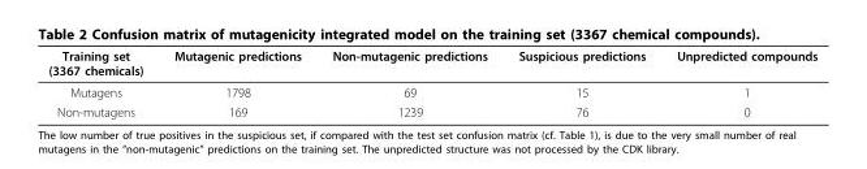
<table><thead><tr><td>Training set (3367 chemicals)</td><td>Mutagenic predictions</td><td>Non-mutagenic predictions</td><td>Suspicious predictions</td><td>Unpredicted compounds</td></tr></thead><tbody><tr><td>Mutagens</td><td>1798</td><td>69</td><td>15</td><td>1</td></tr><tr><td>Non-mutagens</td><td>169</td><td>1239</td><td>76</td><td>0</td></tr></tbody></table>